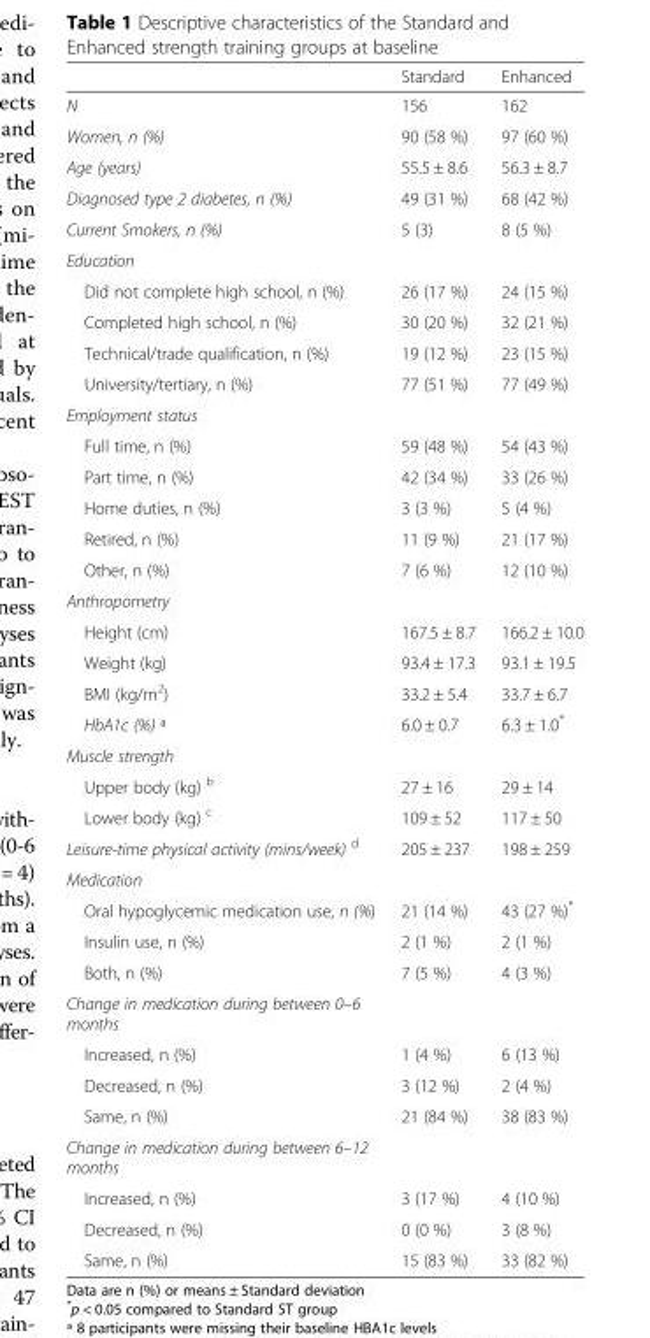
<table><thead><tr><td></td><td>Standard</td><td>Enhanced</td></tr></thead><tbody><tr><td>N</td><td>156</td><td>162</td></tr><tr><td>Women, n (%)</td><td>90 (58 %)</td><td>97 (60 %)</td></tr><tr><td>Age (years)</td><td>55.5 ± 8.6</td><td>56.3 ± 8.7</td></tr><tr><td>Diagnosed type 2 diabetes, n (%)</td><td>49 (31 %)</td><td>68 (42 %)</td></tr><tr><td>Current Smokers, n (%)</td><td>5 (3)</td><td>8 (5 %)</td></tr><tr><td colspan="3">Education</td></tr><tr><td>Did not complete high school, n (%)</td><td>26 (17 %)</td><td>24 (15 %)</td></tr><tr><td>Completed high school, n (%)</td><td>30 (20 %)</td><td>32 (21 %)</td></tr><tr><td>Technical/trade qualification, n (%)</td><td>19 (12 %)</td><td>23 (15 %)</td></tr><tr><td>University/tertiary, n (%)</td><td>77 (51 %)</td><td>77 (49 %)</td></tr><tr><td colspan="3">Employment status</td></tr><tr><td>Full time, n (%)</td><td>59 (48 %)</td><td>54 (43 %)</td></tr><tr><td>Part time, n (%)</td><td>42 (34 %)</td><td>33 (26 %)</td></tr><tr><td>Home duties, n (%)</td><td>3 (3 %)</td><td>5 (4 %)</td></tr><tr><td>Retired, n (%)</td><td>11 (9 %)</td><td>21 (17 %)</td></tr><tr><td>Other, n (%)</td><td>7 (6 %)</td><td>12 (10 %)</td></tr><tr><td colspan="3">Anthropometry</td></tr><tr><td>Height (cm)</td><td>167.5 ± 8.7</td><td>166.2 ± 10.0</td></tr><tr><td>Weight (kg)</td><td>93.4 ± 17.3</td><td>93.1 ± 19.5</td></tr><tr><td>BMI (kg/m<sup>2</sup>)</td><td>33.2 ± 5.4</td><td>33.7 ± 6.7</td></tr><tr><td>HbA1c (%) ª</td><td>6.0 ± 0.7</td><td>6.3 ± 1.0*</td></tr><tr><td colspan="3">Muscle strength</td></tr><tr><td>Upper body (kg) <sup>b</sup></td><td>27 ± 16</td><td>29 ± 14</td></tr><tr><td>Lower body (kg) <sup>c</sup></td><td>109 ± 52</td><td>117 ± 50</td></tr><tr><td>Leisure-time physical activity (mins/week) <sup>d</sup></td><td>205 ± 237</td><td>198 ± 259</td></tr><tr><td colspan="3">Medication</td></tr><tr><td>Oral hypoglycemic medication use, n (%)</td><td>21 (14 %)</td><td>43 (27 %)*</td></tr><tr><td>Insulin use, n (%)</td><td>2 (1 %)</td><td>2 (1 %)</td></tr><tr><td>Both, n (%)</td><td>7 (5 %)</td><td>4 (3 %)</td></tr><tr><td colspan="3">Change in medication during between 0–6 months</td></tr><tr><td>Increased, n (%)</td><td>1 (4 %)</td><td>6 (13 %)</td></tr><tr><td>Decreased, n (%)</td><td>3 (12 %)</td><td>2 (4 %)</td></tr><tr><td>Same, n (%)</td><td>21 (84 %)</td><td>38 (83 %)</td></tr><tr><td colspan="3">Change in medication during between 6–12 months</td></tr><tr><td>Increased, n (%)</td><td>3 (17 %)</td><td>4 (10 %)</td></tr><tr><td>Decreased, n (%)</td><td>0 (0 %)</td><td>3 (8 %)</td></tr><tr><td>Same, n (%)</td><td>15 (83 %)</td><td>33 (82 %)</td></tr></tbody></table>